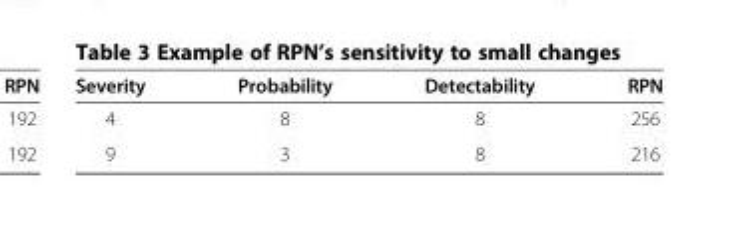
<table><thead><tr><td>Severity</td><td>Probability</td><td>Detectability</td><td>RPN</td></tr></thead><tbody><tr><td>4</td><td>8</td><td>8</td><td>256</td></tr><tr><td>9</td><td>3</td><td>8</td><td>216</td></tr></tbody></table>